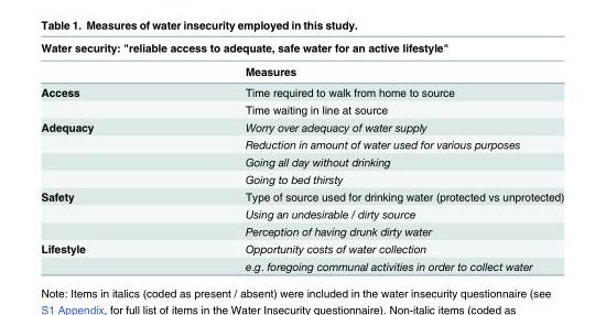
<table><thead><tr><td colspan="2">Water security: &quot;reliable access to adequate, safe water for an active lifestyle&quot;</td></tr><tr><td></td><td>Measures</td></tr></thead><tbody><tr><td rowspan="2">Access</td><td>Time required to walk from home to source</td></tr><tr><td>Time waiting in line at source</td></tr><tr><td rowspan="4">Adequacy</td><td>Worry over adequacy of water supply</td></tr><tr><td>Reduction in amount of water used for various purposes</td></tr><tr><td>Going all day without drinking</td></tr><tr><td>Going to bed thirsty</td></tr><tr><td rowspan="3">Safety</td><td>Type of source used for drinking water (protected vs unprotected)</td></tr><tr><td>Using an undesirable / dirty source</td></tr><tr><td>Perception of having drunk dirty water</td></tr><tr><td rowspan="2">Lifestyle</td><td>Opportunity costs of water collection</td></tr><tr><td>e.g. foregoing communal activities in order to collect water</td></tr></tbody></table>